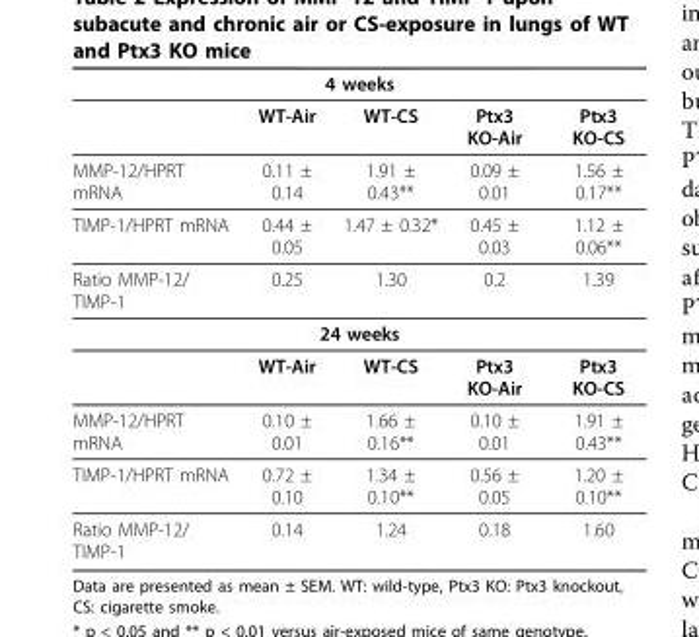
<table><thead><tr><td colspan="5">4 weeks</td></tr><tr><td></td><td>WT-Air</td><td>WT-CS</td><td>Ptx3 KO-Air</td><td>Ptx3 KO-CS</td></tr></thead><tbody><tr><td>MMP-12/HPRT mRNA</td><td>0.11 ± 0.14</td><td>1.91 ± 0.43**</td><td>0.09 ± 0.01</td><td>1.56 ± 0.17**</td></tr><tr><td>TIMP-1/HPRT mRNA</td><td>0.44 ± 0.05</td><td>1.47 ± 0.32*</td><td>0.45 ± 0.03</td><td>1.12 ± 0.06**</td></tr><tr><td>Ratio MMP-12/ TIMP-1</td><td>0.25</td><td>1.30</td><td>0.2</td><td>1.39</td></tr><tr><td colspan="5">24 weeks</td></tr><tr><td></td><td>WT-Air</td><td>WT-CS</td><td>Ptx3 KO-Air</td><td>Ptx3 KO-CS</td></tr><tr><td>MMP-12/HPRT mRNA</td><td>0.10 ± 0.01</td><td>1.66 ± 0.16**</td><td>0.10 ± 0.01</td><td>1.91 ± 0.43**</td></tr><tr><td>TIMP-1/HPRT mRNA</td><td>0.72 ± 0.10</td><td>1.34 ± 0.10**</td><td>0.56 ± 0.05</td><td>1.20 ± 0.10**</td></tr><tr><td>Ratio MMP-12/ TIMP-1</td><td>0.14</td><td>1.24</td><td>0.18</td><td>1.60</td></tr></tbody></table>